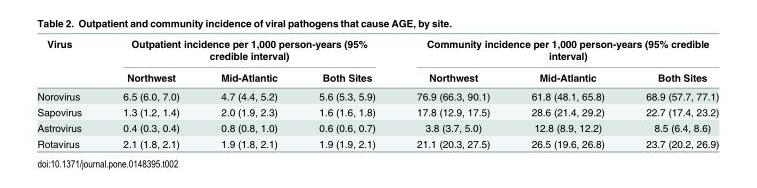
<table><thead><tr><td rowspan="2">Virus</td><td colspan="3">Outpatient incidence per 1,000 person-years (95% credible interval)</td><td colspan="3">Community incidence per 1,000 person-years (95% credible interval)</td></tr><tr><td>Northwest</td><td>Mid-Atlantic</td><td>Both Sites</td><td>Northwest</td><td>Mid-Atlantic</td><td>Both Sites</td></tr></thead><tbody><tr><td>Norovirus</td><td>6.5 (6.0, 7.0)</td><td>4.7 (4.4, 5.2)</td><td>5.6 (5.3, 5.9)</td><td>76.9 (66.3, 90.1)</td><td>61.8 (48.1, 65.8)</td><td>68.9 (57.7, 77.1)</td></tr><tr><td>Sapovirus</td><td>1.3 (1.2, 1.4)</td><td>2.0 (1.9, 2.3)</td><td>1.6 (1.6, 1.8)</td><td>17.8 (12.9, 17.5)</td><td>28.6 (21.4, 29.2)</td><td>22.7 (17.4, 23.2)</td></tr><tr><td>Astrovirus</td><td>0.4 (0.3, 0.4)</td><td>0.8 (0.8, 1.0)</td><td>0.6 (0.6, 0.7)</td><td>3.8 (3.7, 5.0)</td><td>12.8 (8.9, 12.2)</td><td>8.5 (6.4, 8.6)</td></tr><tr><td>Rotavirus</td><td>2.1 (1.8, 2.1)</td><td>1.9 (1.8, 2.1)</td><td>1.9 (1.9, 2.1)</td><td>21.1 (20.3, 27.5)</td><td>26.5 (19.6, 26.8)</td><td>23.7 (20.2, 26.9)</td></tr></tbody></table>